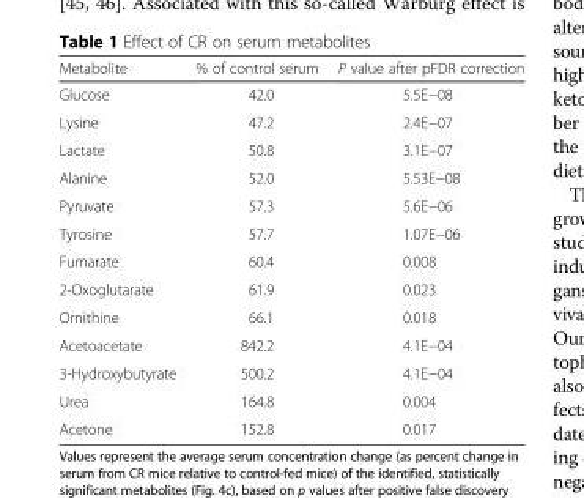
<table><thead><tr><td>Metabolite</td><td>% of control serum</td><td>P value after pFDR correction</td></tr></thead><tbody><tr><td>Glucose</td><td>42.0</td><td>5.5E−08</td></tr><tr><td>Lysine</td><td>47.2</td><td>2.4E−07</td></tr><tr><td>Lactate</td><td>50.8</td><td>3.1E−07</td></tr><tr><td>Alanine</td><td>52.0</td><td>5.53E−08</td></tr><tr><td>Pyruvate</td><td>57.3</td><td>5.6E−06</td></tr><tr><td>Tyrosine</td><td>57.7</td><td>1.07E−06</td></tr><tr><td>Fumarate</td><td>60.4</td><td>0.008</td></tr><tr><td>2-Oxoglutarate</td><td>61.9</td><td>0.023</td></tr><tr><td>Ornithine</td><td>66.1</td><td>0.018</td></tr><tr><td>Acetoacetate</td><td>842.2</td><td>4.1E−04</td></tr><tr><td>3-Hydroxybutyrate</td><td>500.2</td><td>4.1E−04</td></tr><tr><td>Urea</td><td>164.8</td><td>0.004</td></tr><tr><td>Acetone</td><td>152.8</td><td>0.017</td></tr></tbody></table>